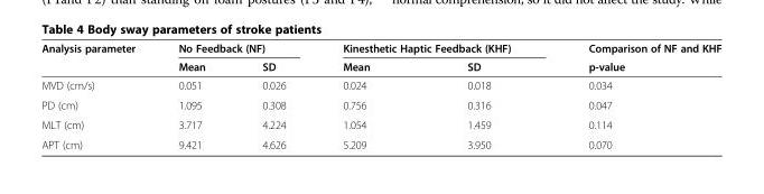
<table><thead><tr><td rowspan="2">Analysis parameter</td><td colspan="2">No Feedback (NF)</td><td colspan="2">Kinesthetic Haptic Feedback (KHF)</td><td rowspan="2">Comparison of NF and KHF p-value</td></tr><tr><td>Mean</td><td>SD</td><td>Mean</td><td>SD</td></tr></thead><tbody><tr><td>MVD (cm/s)</td><td>0.051</td><td>0.026</td><td>0.024</td><td>0.018</td><td>0.034</td></tr><tr><td>PD (cm)</td><td>1.095</td><td>0.308</td><td>0.756</td><td>0.316</td><td>0.047</td></tr><tr><td>MLT (cm)</td><td>3.717</td><td>4.224</td><td>1.054</td><td>1.459</td><td>0.114</td></tr><tr><td>APT (cm)</td><td>9.421</td><td>4.626</td><td>5.209</td><td>3.950</td><td>0.070</td></tr></tbody></table>